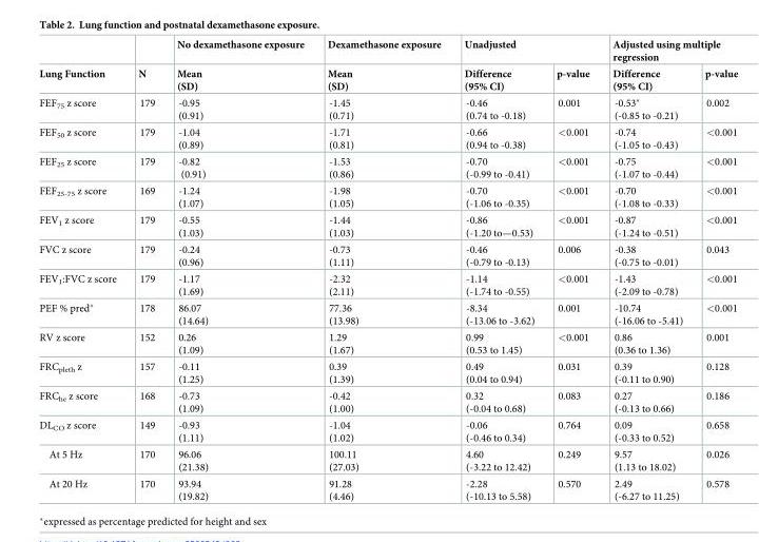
<table><thead><tr><td rowspan="2">Lung Function</td><td rowspan="2">N</td><td rowspan="2">No dexamethasone exposure Mean (SD)</td><td rowspan="2">Dexamethasone exposure Mean (SD)</td><td colspan="2">Unadjusted</td><td colspan="2">Adjusted using multiple regression</td></tr><tr><td>Difference (95% CI)</td><td>p-value</td><td>Difference (95% CI)</td><td>p-value</td></tr></thead><tbody><tr><td>FEF<sub>75</sub> z score</td><td>179</td><td>-0.95 (0.91)</td><td>-1.45 (0.71)</td><td>-0.46 (0.74 to -0.18)</td><td>0.001</td><td>-0.53* (-0.85 to -0.21)</td><td>0.002</td></tr><tr><td>FEF<sub>50</sub> z score</td><td>179</td><td>-1.04 (0.89)</td><td>-1.71 (0.81)</td><td>-0.66 (0.94 to -0.38)</td><td>&lt;0.001</td><td>-0.74 (-1.05 to -0.43)</td><td>&lt;0.001</td></tr><tr><td>FEF<sub>25</sub> z score</td><td>179</td><td>-0.82 (0.91)</td><td>-1.53 (0.86)</td><td>-0.70 (-0.99 to -0.41)</td><td>&lt;0.001</td><td>-0.75 (-1.07 to -0.44)</td><td>&lt;0.001</td></tr><tr><td>FEF<sub>25-75</sub> z score</td><td>169</td><td>-1.24 (1.07)</td><td>-1.98 (1.05)</td><td>-0.70 (-1.06 to -0.35)</td><td>&lt;0.001</td><td>-0.70 (-1.08 to -0.33)</td><td>&lt;0.001</td></tr><tr><td>FEV<sub>1</sub> z score</td><td>179</td><td>-0.55 (1.03)</td><td>-1.44 (1.03)</td><td>-0.86 (-1.20 to—0.53)</td><td>&lt;0.001</td><td>-0.87 (-1.24 to -0.51)</td><td>&lt;0.001</td></tr><tr><td>FVC z score</td><td>179</td><td>-0.24 (0.96)</td><td>-0.73 (1.11)</td><td>-0.46 (-0.79 to -0.13)</td><td>0.006</td><td>-0.38 (-0.75 to -0.01)</td><td>0.043</td></tr><tr><td>FEV<sub>1</sub>:FVC z score</td><td>179</td><td>-1.17 (1.69)</td><td>-2.32 (2.11)</td><td>-1.14 (-1.74 to -0.55)</td><td>&lt;0.001</td><td>-1.43 (-2.09 to -0.78)</td><td>&lt;0.001</td></tr><tr><td>PEF % pred*</td><td>178</td><td>86.07 (14.64)</td><td>77.36 (13.98)</td><td>-8.34 (-13.06 to -3.62)</td><td>0.001</td><td>-10.74 (-16.06 to -5.41)</td><td>&lt;0.001</td></tr><tr><td>RV z score</td><td>152</td><td>0.26 (1.09)</td><td>1.29 (1.67)</td><td>0.99 (0.53 to 1.45)</td><td>&lt;0.001</td><td>0.86 (0.36 to 1.36)</td><td>0.001</td></tr><tr><td>FRC<sub>pleth</sub> z</td><td>157</td><td>-0.11 (1.25)</td><td>0.39 (1.39)</td><td>0.49 (0.04 to 0.94)</td><td>0.031</td><td>0.39 (-0.11 to 0.90)</td><td>0.128</td></tr><tr><td>FRC<sub>he</sub> z score</td><td>168</td><td>-0.73 (1.09)</td><td>-0.42 (1.00)</td><td>0.32 (-0.04 to 0.68)</td><td>0.083</td><td>0.27 (-0.13 to 0.66)</td><td>0.186</td></tr><tr><td>DL<sub>CO</sub> z score</td><td>149</td><td>-0.93 (1.11)</td><td>-1.04 (1.02)</td><td>-0.06 (-0.46 to 0.34)</td><td>0.764</td><td>0.09 (-0.33 to 0.52)</td><td>0.658</td></tr><tr><td>At 5 Hz</td><td>170</td><td>96.06 (21.38)</td><td>100.11 (27.03)</td><td>4.60 (-3.22 to 12.42)</td><td>0.249</td><td>9.57 (1.13 to 18.02)</td><td>0.026</td></tr><tr><td>At 20 Hz</td><td>170</td><td>93.94 (19.82)</td><td>91.28 (4.46)</td><td>-2.28 (-10.13 to 5.58)</td><td>0.570</td><td>2.49 (-6.27 to 11.25)</td><td>0.578</td></tr></tbody></table>